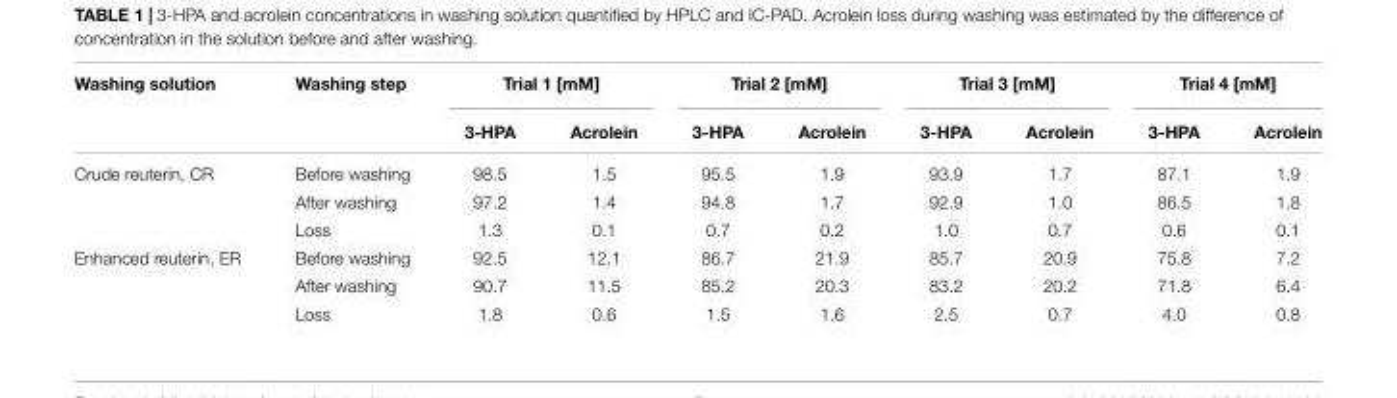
<table><thead><tr><td rowspan="2">Washing solution</td><td rowspan="2">Washing step</td><td colspan="2">Trial 1 [mM]</td><td colspan="2">Trial 2 [mM]</td><td colspan="2">Trial 3 [mM]</td><td colspan="2">Trial 4 [mM]</td></tr><tr><td>3-HPA</td><td>Acrolein</td><td>3-HPA</td><td>Acrolein</td><td>3-HPA</td><td>Acrolein</td><td>3-HPA</td><td>Acrolein</td></tr></thead><tbody><tr><td rowspan="3">Crude reuterin, CR</td><td>Before washing</td><td>98.5</td><td>1.5</td><td>95.5</td><td>1.9</td><td>93.9</td><td>1.7</td><td>87.1</td><td>1.9</td></tr><tr><td>After washing</td><td>97.2</td><td>1.4</td><td>94.8</td><td>1.7</td><td>92.9</td><td>1.0</td><td>86.5</td><td>1.8</td></tr><tr><td>Loss</td><td>1.3</td><td>0.1</td><td>0.7</td><td>0.2</td><td>1.0</td><td>0.7</td><td>0.6</td><td>0.1</td></tr><tr><td rowspan="3">Enhanced reuterin, ER</td><td>Before washing</td><td>92.5</td><td>12.1</td><td>86.7</td><td>21.9</td><td>85.7</td><td>20.9</td><td>75.8</td><td>7.2</td></tr><tr><td>After washing</td><td>90.7</td><td>11.5</td><td>85.2</td><td>20.3</td><td>83.2</td><td>20.2</td><td>71.8</td><td>6.4</td></tr><tr><td>Loss</td><td>1.8</td><td>0.6</td><td>1.5</td><td>1.6</td><td>2.5</td><td>0.7</td><td>4.0</td><td>0.8</td></tr></tbody></table>